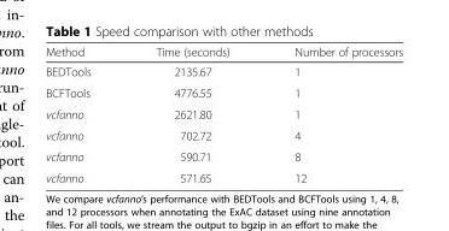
<table><thead><tr><td>Method</td><td>Time (seconds)</td><td>Number of processors</td></tr></thead><tbody><tr><td>BEDTools</td><td>2135.67</td><td>1</td></tr><tr><td>BCFTools</td><td>4776.55</td><td>1</td></tr><tr><td>vcfanno</td><td>2621.80</td><td>1</td></tr><tr><td>vcfanno</td><td>702.72</td><td>4</td></tr><tr><td>vcfanno</td><td>590.71</td><td>8</td></tr><tr><td>vcfanno</td><td>571.65</td><td>12</td></tr></tbody></table>